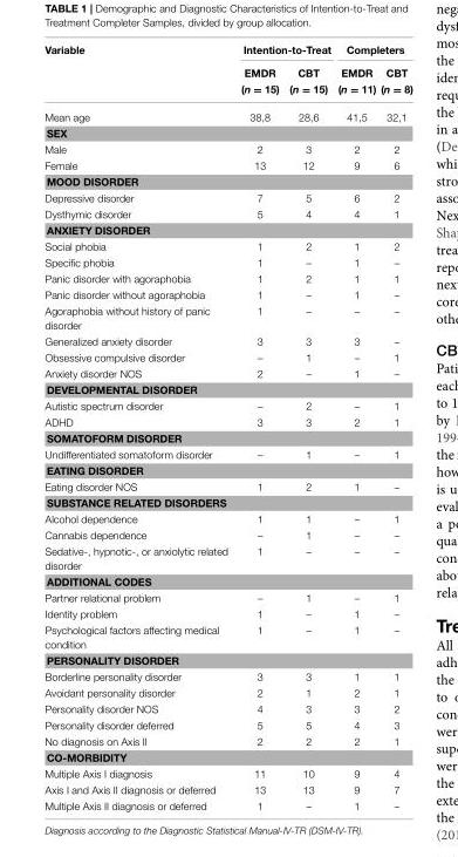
<table><thead><tr><td rowspan="3">Variable</td><td colspan="2">Intention-to-Treat</td><td colspan="2">Completers</td></tr><tr><td rowspan="2">EMDR (n = 15)</td><td rowspan="2">CBT (n = 15)</td><td rowspan="2">EMDR (n = 11)</td><td rowspan="2">CBT (n = 8)</td></tr><tr></tr></thead><tbody><tr><td>Mean age</td><td>38,8</td><td>28,6</td><td>41,5</td><td>32,1</td></tr><tr><td colspan="5">SEX</td></tr><tr><td>Male</td><td>2</td><td>3</td><td>2</td><td>2</td></tr><tr><td>Female</td><td>13</td><td>12</td><td>9</td><td>6</td></tr><tr><td colspan="5">MOOD DISORDER</td></tr><tr><td>Depressive disorder</td><td>7</td><td>5</td><td>6</td><td>2</td></tr><tr><td>Dysthymic disorder</td><td>5</td><td>4</td><td>4</td><td>1</td></tr><tr><td colspan="5">ANXIETY DISORDER</td></tr><tr><td>Social phobia</td><td>1</td><td>2</td><td>1</td><td>2</td></tr><tr><td>Specific phobia</td><td>1</td><td>–</td><td>1</td><td>–</td></tr><tr><td>Panic disorder with agoraphobia</td><td>1</td><td>2</td><td>1</td><td>1</td></tr><tr><td>Panic disorder without agoraphobia</td><td>1</td><td>–</td><td>1</td><td>–</td></tr><tr><td>Agoraphobia without history of panic disorder</td><td>1</td><td>–</td><td>–</td><td>–</td></tr><tr><td>Generalized anxiety disorder</td><td>3</td><td>3</td><td>3</td><td>–</td></tr><tr><td>Obsessive compulsive disorder</td><td>–</td><td>1</td><td>–</td><td>1</td></tr><tr><td>Anxiety disorder NOS</td><td>2</td><td>–</td><td>1</td><td>–</td></tr><tr><td colspan="5">DEVELOPMENTAL DISORDER</td></tr><tr><td>Autistic spectrum disorder</td><td>–</td><td>2</td><td>–</td><td>1</td></tr><tr><td>ADHD</td><td>3</td><td>3</td><td>2</td><td>1</td></tr><tr><td colspan="5">SOMATOFORM DISORDER</td></tr><tr><td>Undifferentiated somatoform disorder</td><td>–</td><td>1</td><td>–</td><td>1</td></tr><tr><td colspan="5">EATING DISORDER</td></tr><tr><td>Eating disorder NOS</td><td>1</td><td>2</td><td>1</td><td>–</td></tr><tr><td colspan="5">SUBSTANCE RELATED DISORDERS</td></tr><tr><td>Alcohol dependence</td><td>1</td><td>1</td><td>–</td><td>1</td></tr><tr><td>Cannabis dependence</td><td>–</td><td>1</td><td>–</td><td>–</td></tr><tr><td>Sedative-, hypnotic-, or anxiolytic related disorder</td><td>1</td><td>–</td><td>–</td><td>–</td></tr><tr><td colspan="5">ADDITIONAL CODES</td></tr><tr><td>Partner relational problem</td><td>–</td><td>1</td><td>–</td><td>1</td></tr><tr><td>Identity problem</td><td>1</td><td>–</td><td>1</td><td>–</td></tr><tr><td>Psychological factors affecting medical condition</td><td>1</td><td>–</td><td>1</td><td>–</td></tr><tr><td colspan="5">PERSONALITY DISORDER</td></tr><tr><td>Borderline personality disorder</td><td>3</td><td>3</td><td>1</td><td>1</td></tr><tr><td>Avoidant personality disorder</td><td>2</td><td>1</td><td>2</td><td>1</td></tr><tr><td>Personality disorder NOS</td><td>4</td><td>3</td><td>3</td><td>2</td></tr><tr><td>Personality disorder deferred</td><td>5</td><td>5</td><td>4</td><td>3</td></tr><tr><td>No diagnosis on Axis II</td><td>2</td><td>2</td><td>2</td><td>1</td></tr><tr><td colspan="5">CO-MORBIDITY</td></tr><tr><td>Multiple Axis I diagnosis</td><td>11</td><td>10</td><td>9</td><td>4</td></tr><tr><td>Axis I and Axis II diagnosis or deferred</td><td>13</td><td>13</td><td>9</td><td>7</td></tr><tr><td>Multiple Axis II diagnosis or deferred</td><td>1</td><td>–</td><td>1</td><td>–</td></tr></tbody></table>